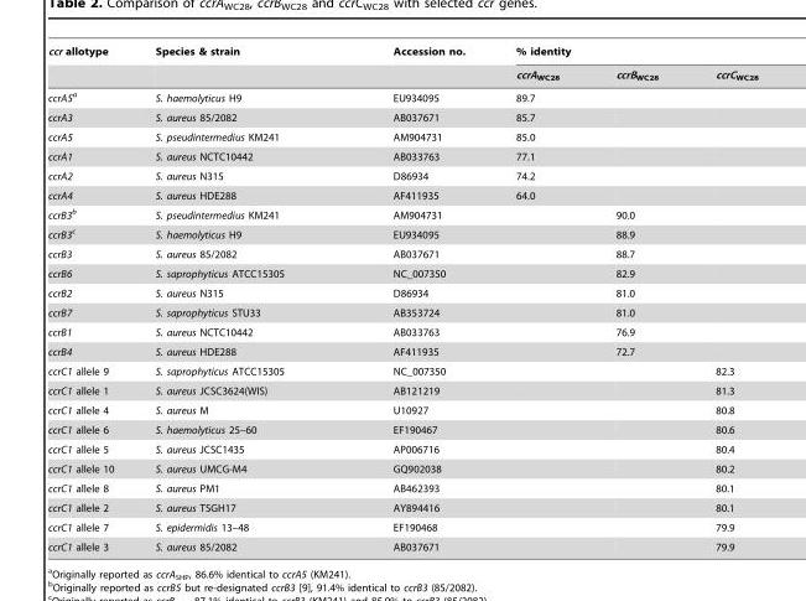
<table><thead><tr><td rowspan="2">ccr allotype</td><td rowspan="2">Species &amp; strain</td><td rowspan="2">Accession no.</td><td colspan="3">% identity</td></tr><tr><td>ccrA<sub>WC28</sub></td><td>ccrB<sub>WC28</sub></td><td>ccrC<sub>WC28</sub></td></tr></thead><tbody><tr><td>ccrA5a</td><td>S. haemolyticus H9</td><td>EU934095</td><td>89.7</td><td></td><td></td></tr><tr><td>ccrA3</td><td>S. aureus 85/2082</td><td>AB037671</td><td>85.7</td><td></td><td></td></tr><tr><td>ccrA5</td><td>S. pseudintermedius KM241</td><td>AM904731</td><td>85.0</td><td></td><td></td></tr><tr><td>ccrA1</td><td>S. aureus NCTC10442</td><td>AB033763</td><td>77.1</td><td></td><td></td></tr><tr><td>ccrA2</td><td>S. aureus N315</td><td>D86934</td><td>74.2</td><td></td><td></td></tr><tr><td>ccrA4</td><td>S. aureus HDE288</td><td>AF411935</td><td>64.0</td><td></td><td></td></tr><tr><td>ccrB3b</td><td>S. pseudintermedius KM241</td><td>AM904731</td><td></td><td>90.0</td><td></td></tr><tr><td>ccrB3c</td><td>S. haemolyticus H9</td><td>EU934095</td><td></td><td>88.9</td><td></td></tr><tr><td>ccrB3</td><td>S. aureus 85/2082</td><td>AB037671</td><td></td><td>88.7</td><td></td></tr><tr><td>ccrB6</td><td>S. saprophyticus ATCC15305</td><td>NC_007350</td><td></td><td>82.9</td><td></td></tr><tr><td>ccrB2</td><td>S. aureus N315</td><td>D86934</td><td></td><td>81.0</td><td></td></tr><tr><td>ccrB7</td><td>S. saprophyticus STU33</td><td>AB353724</td><td></td><td>81.0</td><td></td></tr><tr><td>ccrB1</td><td>S. aureus NCTC10442</td><td>AB033763</td><td></td><td>76.9</td><td></td></tr><tr><td>ccrB4</td><td>S. aureus HDE288</td><td>AF411935</td><td></td><td>72.7</td><td></td></tr><tr><td>ccrC1 allele 9</td><td>S. saprophyticus ATCC15305</td><td>NC_007350</td><td></td><td></td><td>82.3</td></tr><tr><td>ccrC1 allele 1</td><td>S. aureus JCSC3624(WIS)</td><td>AB121219</td><td></td><td></td><td>81.3</td></tr><tr><td>ccrC1 allele 4</td><td>S. aureus M</td><td>U10927</td><td></td><td></td><td>80.8</td></tr><tr><td>ccrC1 allele 6</td><td>S. haemolyticus 25–60</td><td>EF190467</td><td></td><td></td><td>80.6</td></tr><tr><td>ccrC1 allele 5</td><td>S. aureus JCSC1435</td><td>AP006716</td><td></td><td></td><td>80.4</td></tr><tr><td>ccrC1 allele 10</td><td>S. aureus UMCG-M4</td><td>GQ902038</td><td></td><td></td><td>80.2</td></tr><tr><td>ccrC1 allele 8</td><td>S. aureus PM1</td><td>AB462393</td><td></td><td></td><td>80.1</td></tr><tr><td>ccrC1 allele 2</td><td>S. aureus TSGH17</td><td>AY894416</td><td></td><td></td><td>80.1</td></tr><tr><td>ccrC1 allele 7</td><td>S. epidermidis 13–48</td><td>EF190468</td><td></td><td></td><td>79.9</td></tr><tr><td>ccrC1 allele 3</td><td>S. aureus 85/2082</td><td>AB037671</td><td></td><td></td><td>79.9</td></tr></tbody></table>